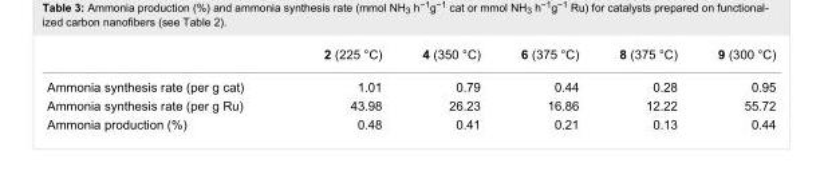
<table><thead><tr><td></td><td>2 (225 °C)</td><td>4 (350 °C)</td><td>6 (375 °C)</td><td>8 (375 °C)</td><td>9 (300 °C)</td></tr></thead><tbody><tr><td>Ammonia synthesis rate (per g cat)</td><td>1.01</td><td>0.79</td><td>0.44</td><td>0.28</td><td>0.95</td></tr><tr><td>Ammonia synthesis rate (per g Ru)</td><td>43.98</td><td>26.23</td><td>16.86</td><td>12.22</td><td>55.72</td></tr><tr><td>Ammonia production (%)</td><td>0.48</td><td>0.41</td><td>0.21</td><td>0.13</td><td>0.44</td></tr></tbody></table>